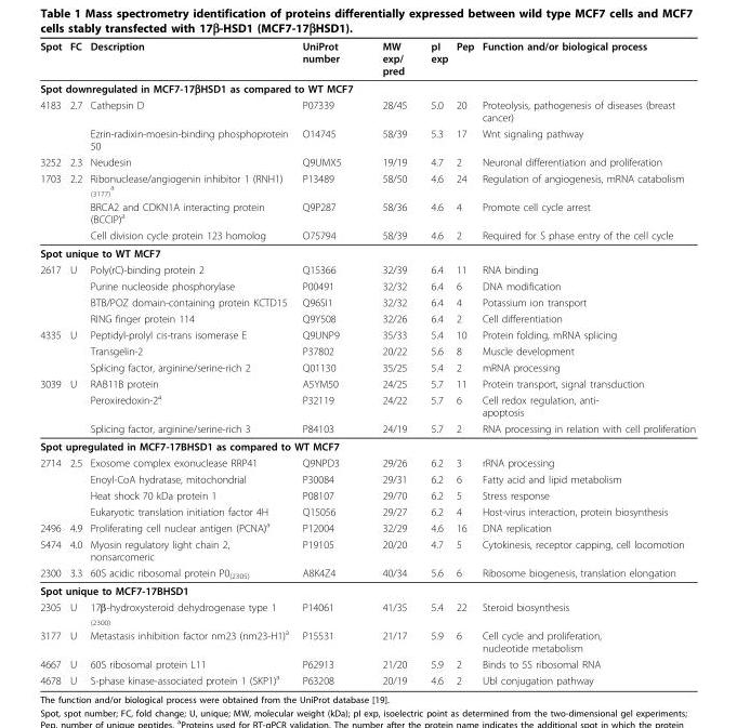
<table><thead><tr><td>Spot</td><td>FC</td><td>Description</td><td>UniProt number</td><td>MW exp/ pred</td><td>pI exp</td><td>Pep</td><td>Function and/or biological process</td></tr></thead><tbody><tr><td colspan="8">Spot downregulated in MCF7-17βHSD1 as compared to WT MCF7</td></tr><tr><td rowspan="2">4183</td><td>2.7</td><td>Cathepsin D</td><td>P07339</td><td>28/45</td><td>5.0</td><td>20</td><td>Proteolysis, pathogenesis of diseases (breast cancer)</td></tr><tr><td></td><td>Ezrin-radixin-moesin-binding phosphoprotein 50</td><td>O14745</td><td>58/39</td><td>5.3</td><td>17</td><td>Wnt signaling pathway</td></tr><tr><td>3252</td><td>2.3</td><td>Neudesin</td><td>Q9UMX5</td><td>19/19</td><td>4.7</td><td>2</td><td>Neuronal differentiation and proliferation</td></tr><tr><td rowspan="3">1703</td><td>2.2</td><td>Ribonuclease/angiogenin inhibitor 1 (RNH1) <sub>(3177)</sub> <sup>a</sup></td><td>P13489</td><td>58/50</td><td>4.6</td><td>24</td><td>Regulation of angiogenesis, mRNA catabolism</td></tr><tr><td></td><td>BRCA2 and CDKN1A interacting protein (BCCIP)<sup>a</sup></td><td>Q9P287</td><td>58/36</td><td>4.6</td><td>4</td><td>Promote cell cycle arrest</td></tr><tr><td></td><td>Cell division cycle protein 123 homolog</td><td>O75794</td><td>58/39</td><td>4.6</td><td>2</td><td>Required for S phase entry of the cell cycle</td></tr><tr><td colspan="8">Spot unique to WT MCF7</td></tr><tr><td rowspan="4">2617</td><td>U</td><td>Poly(rC)-binding protein 2</td><td>Q15366</td><td>32/39</td><td>6.4</td><td>11</td><td>RNA binding</td></tr><tr><td></td><td>Purine nucleoside phosphorylase</td><td>P00491</td><td>32/32</td><td>6.4</td><td>6</td><td>DNA modification</td></tr><tr><td></td><td>BTB/POZ domain-containing protein KCTD15</td><td>Q96SI1</td><td>32/32</td><td>6.4</td><td>4</td><td>Potassium ion transport</td></tr><tr><td></td><td>RING finger protein 114</td><td>Q9Y508</td><td>32/26</td><td>6.4</td><td>2</td><td>Cell differentiation</td></tr><tr><td rowspan="3">4335</td><td>U</td><td>Peptidyl-prolyl cis-trans isomerase E</td><td>Q9UNP9</td><td>35/33</td><td>5.4</td><td>10</td><td>Protein folding, mRNA splicing</td></tr><tr><td></td><td>Transgelin-2</td><td>P37802</td><td>20/22</td><td>5.6</td><td>8</td><td>Muscle development</td></tr><tr><td></td><td>Splicing factor, arginine/serine-rich 2</td><td>Q01130</td><td>35/25</td><td>5.4</td><td>2</td><td>mRNA processing</td></tr><tr><td rowspan="3">3039</td><td>U</td><td>RAB11B protein</td><td>A5YM50</td><td>24/25</td><td>5.7</td><td>11</td><td>Protein transport, signal transduction</td></tr><tr><td></td><td>Peroxiredoxin-2<sup>a</sup></td><td>P32119</td><td>24/22</td><td>5.7</td><td>6</td><td>Cell redox regulation, anti- apoptosis</td></tr><tr><td></td><td>Splicing factor, arginine/serine-rich 3</td><td>P84103</td><td>24/19</td><td>5.7</td><td>2</td><td>RNA processing in relation with cell proliferation</td></tr><tr><td colspan="8">Spot upregulated in MCF7-17ΒHSD1 as compared to WT MCF7</td></tr><tr><td rowspan="4">2714</td><td>2.5</td><td>Exosome complex exonuclease RRP41</td><td>Q9NPD3</td><td>29/26</td><td>6.2</td><td>3</td><td>rRNA processing</td></tr><tr><td></td><td>Enoyl-CoA hydratase, mitochondrial</td><td>P30084</td><td>29/31</td><td>6.2</td><td>6</td><td>Fatty acid and lipid metabolism</td></tr><tr><td></td><td>Heat shock 70 kDa protein 1</td><td>P08107</td><td>29/70</td><td>6.2</td><td>5</td><td>Stress response</td></tr><tr><td></td><td>Eukaryotic translation initiation factor 4H</td><td>Q15056</td><td>29/27</td><td>6.2</td><td>4</td><td>Host-virus interaction, protein biosynthesis</td></tr><tr><td>2496</td><td>4.9</td><td>Proliferating cell nuclear antigen (PCNA)<sup>a</sup></td><td>P12004</td><td>32/29</td><td>4.6</td><td>16</td><td>DNA replication</td></tr><tr><td>5474</td><td>4.0</td><td>Myosin regulatory light chain 2, nonsarcomeric</td><td>P19105</td><td>20/20</td><td>4.7</td><td>5</td><td>Cytokinesis, receptor capping, cell locomotion</td></tr><tr><td>2300</td><td>3.3</td><td>60S acidic ribosomal protein P0<sub>(2305)</sub></td><td>A8K4Z4</td><td>40/34</td><td>5.6</td><td>6</td><td>Ribosome biogenesis, translation elongation</td></tr><tr><td colspan="8">Spot unique to MCF7-17ΒHSD1</td></tr><tr><td>2305</td><td>U</td><td>17β-hydroxysteroid dehydrogenase type 1 <sub>(2300)</sub></td><td>P14061</td><td>41/35</td><td>5.4</td><td>22</td><td>Steroid biosynthesis</td></tr><tr><td>3177</td><td>U</td><td>Metastasis inhibition factor nm23 (nm23-H1)<sup>a</sup></td><td>P15531</td><td>21/17</td><td>5.9</td><td>6</td><td>Cell cycle and proliferation, nucleotide metabolism</td></tr><tr><td>4667</td><td>U</td><td>60S ribosomal protein L11</td><td>P62913</td><td>21/20</td><td>5.9</td><td>2</td><td>Binds to 5S ribosomal RNA</td></tr><tr><td>4678</td><td>U</td><td>S-phase kinase-associated protein 1 (SKP1)<sup>a</sup></td><td>P63208</td><td>20/19</td><td>4.6</td><td>2</td><td>Ubl conjugation pathway</td></tr></tbody></table>